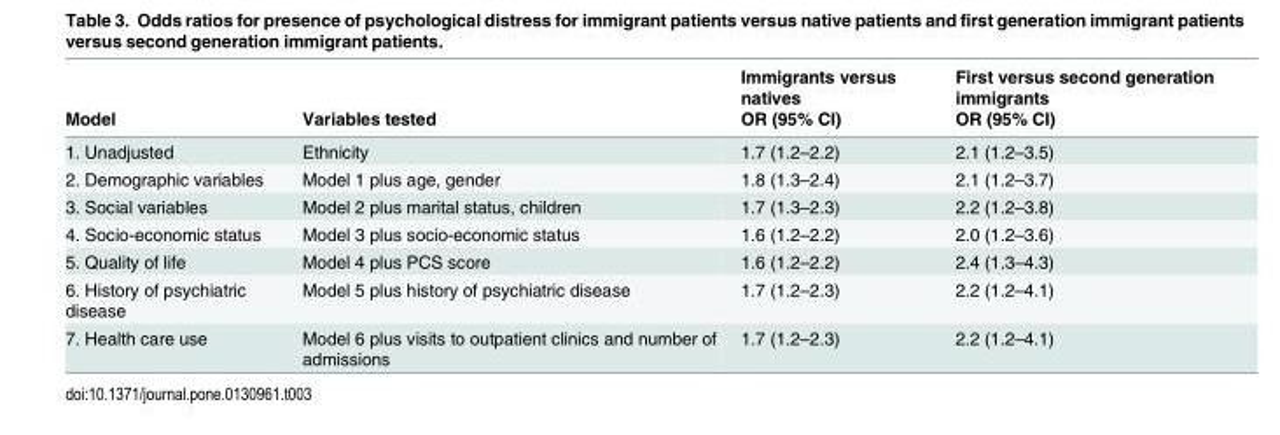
<table><thead><tr><td rowspan="2">Model</td><td rowspan="2">Variables tested</td><td rowspan="2">Immigrants versus natives OR (95% CI)</td><td rowspan="2">First versus second generation immigrants OR (95% CI)</td></tr><tr></tr></thead><tbody><tr><td>1. Unadjusted</td><td>Ethnicity</td><td>1.7 (1.2–2.2)</td><td>2.1 (1.2–3.5)</td></tr><tr><td>2. Demographic variables</td><td>Model 1 plus age, gender</td><td>1.8 (1.3–2.4)</td><td>2.1 (1.2–3.7)</td></tr><tr><td>3. Social variables</td><td>Model 2 plus marital status, children</td><td>1.7 (1.3–2.3)</td><td>2.2 (1.2–3.8)</td></tr><tr><td>4. Socio-economic status</td><td>Model 3 plus socio-economic status</td><td>1.6 (1.2–2.2)</td><td>2.0 (1.2–3.6)</td></tr><tr><td>5. Quality of life</td><td>Model 4 plus PCS score</td><td>1.6 (1.2–2.2)</td><td>2.4 (1.3–4.3)</td></tr><tr><td>6. History of psychiatric disease</td><td>Model 5 plus history of psychiatric disease</td><td>1.7 (1.2–2.3)</td><td>2.2 (1.2–4.1)</td></tr><tr><td>7. Health care use</td><td>Model 6 plus visits to outpatient clinics and number of admissions</td><td>1.7 (1.2–2.3)</td><td>2.2 (1.2–4.1)</td></tr></tbody></table>